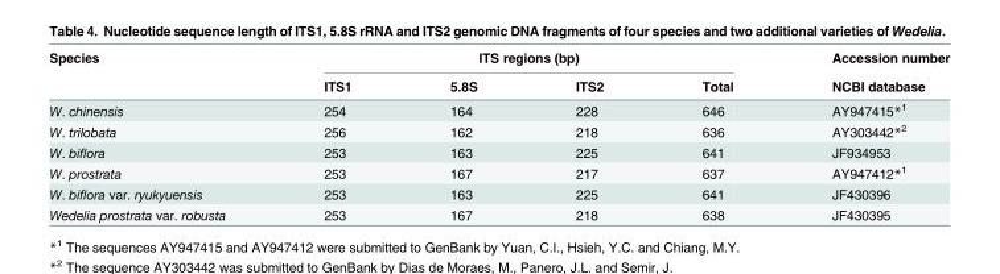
<table><thead><tr><td rowspan="2">Species</td><td colspan="4">ITS regions (bp)</td><td rowspan="2">Accession number NCBI database</td></tr><tr><td>ITS1</td><td>5.8S</td><td>ITS2</td><td>Total</td></tr></thead><tbody><tr><td>W. chinensis</td><td>254</td><td>164</td><td>228</td><td>646</td><td>AY947415*<sup>1</sup></td></tr><tr><td>W. trilobata</td><td>256</td><td>162</td><td>218</td><td>636</td><td>AY303442*<sup>2</sup></td></tr><tr><td>W. biflora</td><td>253</td><td>163</td><td>225</td><td>641</td><td>JF934953</td></tr><tr><td>W. prostrata</td><td>253</td><td>167</td><td>217</td><td>637</td><td>AY947412*<sup>1</sup></td></tr><tr><td>W. biflora var. ryukyuensis</td><td>253</td><td>163</td><td>225</td><td>641</td><td>JF430396</td></tr><tr><td>Wedelia prostrata var. robusta</td><td>253</td><td>167</td><td>218</td><td>638</td><td>JF430395</td></tr></tbody></table>